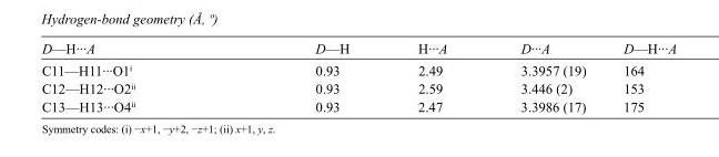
<table><tbody><tr><td>D—H···A</td><td>D—H</td><td>H···A</td><td>D···A</td><td>D—H···A</td></tr><tr><td>C11—H11···O1<sup>i</sup></td><td>0.93</td><td>2.49</td><td>3.3957 (19)</td><td>164</td></tr><tr><td>C12—H12···O2<sup>ii</sup></td><td>0.93</td><td>2.59</td><td>3.446 (2)</td><td>153</td></tr><tr><td>C13—H13···O4<sup>ii</sup></td><td>0.93</td><td>2.47</td><td>3.3986 (17)</td><td>175</td></tr></tbody></table>